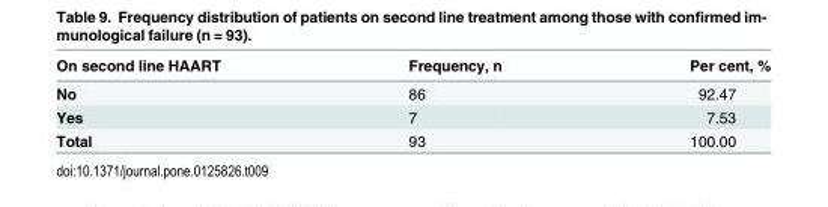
<table><thead><tr><td>On second line HAART</td><td>Frequency, n</td><td>Per cent, %</td></tr></thead><tbody><tr><td>No</td><td>86</td><td>92.47</td></tr><tr><td>Yes</td><td>7</td><td>7.53</td></tr><tr><td>Total</td><td>93</td><td>100.00</td></tr></tbody></table>